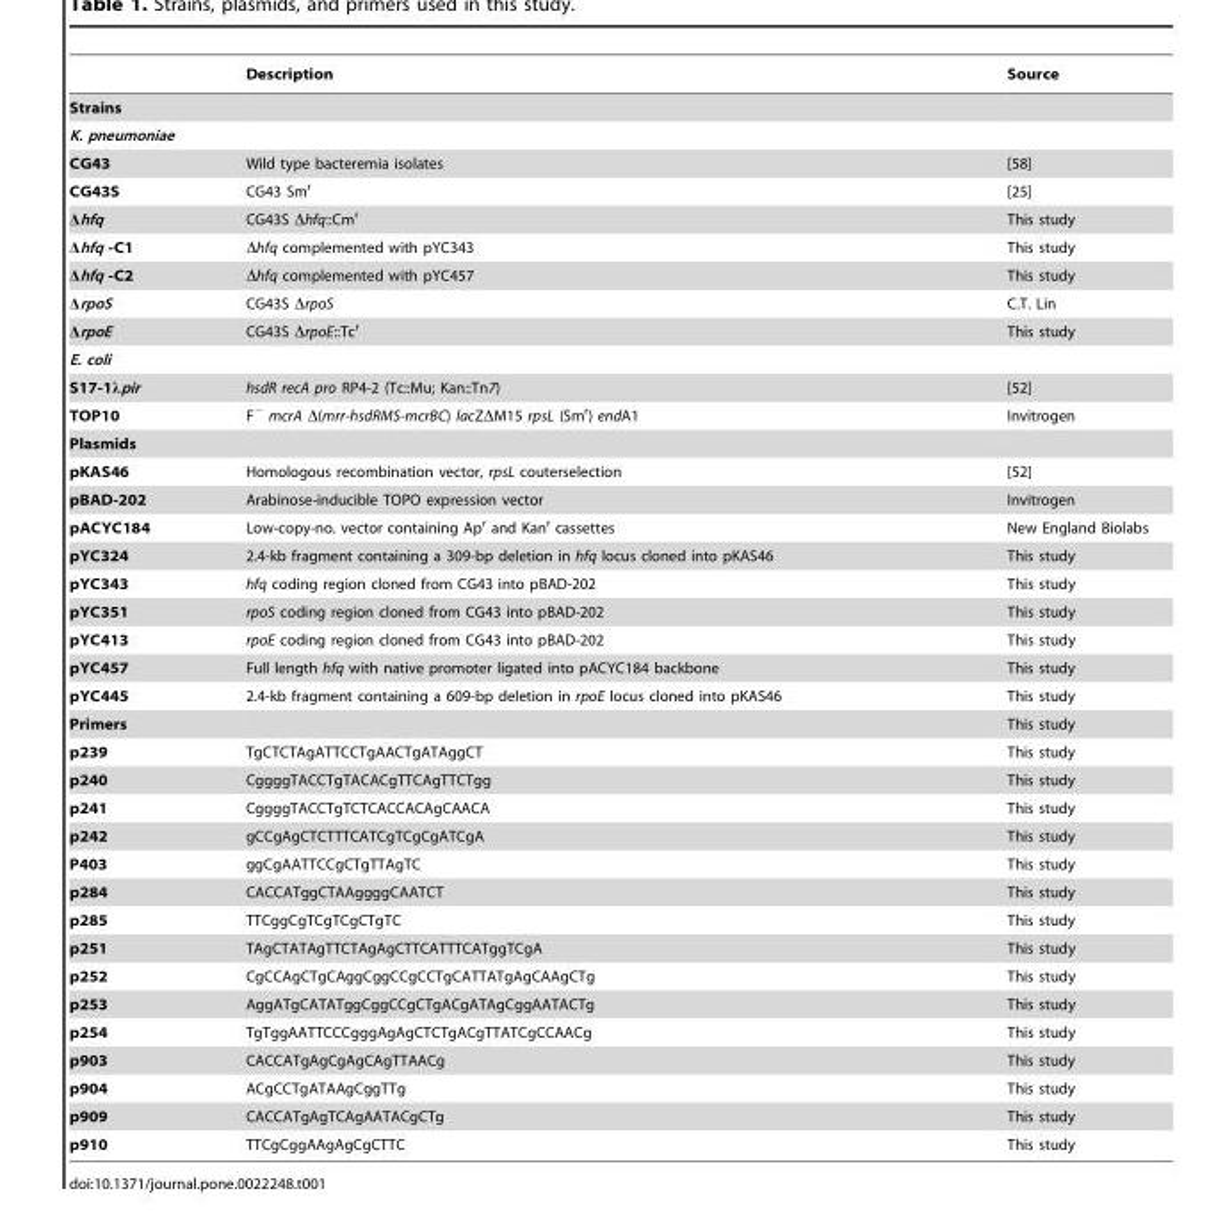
<table><thead><tr><td></td><td>Description</td><td>Source</td></tr></thead><tbody><tr><td colspan="3">Strains</td></tr><tr><td colspan="3">K. pneumoniae</td></tr><tr><td>CG43</td><td>Wild type bacteremia isolates</td><td>[58]</td></tr><tr><td>CG43S</td><td>CG43 Sm<sup>r</sup></td><td>[25]</td></tr><tr><td>Δhfq</td><td>CG43S Δhfq::Cm<sup>r</sup></td><td>This study</td></tr><tr><td>Δhfq -C1</td><td>Δhfq complemented with pYC343</td><td>This study</td></tr><tr><td>Δhfq -C2</td><td>Δhfq complemented with pYC457</td><td>This study</td></tr><tr><td>ΔrpoS</td><td>CG43S ΔrpoS</td><td>C.T. Lin</td></tr><tr><td>ΔrpoE</td><td>CG43S ΔrpoE::Tc<sup>r</sup></td><td>This study</td></tr><tr><td colspan="3">E. coli</td></tr><tr><td>S17-1λpir</td><td>hsdR recA pro RP4-2 (Tc::Mu; Kan::Tn7)</td><td>[52]</td></tr><tr><td>TOP10</td><td>F<sup>−</sup> mcrA Δ(mrr-hsdRMS-mcrBC) lacZΔM15 rpsL (Sm<sup>r</sup>) endA1</td><td>Invitrogen</td></tr><tr><td colspan="3">Plasmids</td></tr><tr><td>pKAS46</td><td>Homologous recombination vector, rpsL couterselection</td><td>[52]</td></tr><tr><td>pBAD-202</td><td>Arabinose-inducible TOPO expression vector</td><td>Invitrogen</td></tr><tr><td>pACYC184</td><td>Low-copy-no. vector containing Ap<sup>r</sup> and Kan<sup>r</sup> cassettes</td><td>New England Biolabs</td></tr><tr><td>pYC324</td><td>2.4-kb fragment containing a 309-bp deletion in hfq locus cloned into pKAS46</td><td>This study</td></tr><tr><td>pYC343</td><td>hfq coding region cloned from CG43 into pBAD-202</td><td>This study</td></tr><tr><td>pYC351</td><td>rpoS coding region cloned from CG43 into pBAD-202</td><td>This study</td></tr><tr><td>pYC413</td><td>rpoE coding region cloned from CG43 into pBAD-202</td><td>This study</td></tr><tr><td>pYC457</td><td>Full length hfq with native promoter ligated into pACYC184 backbone</td><td>This study</td></tr><tr><td>pYC445</td><td>2.4-kb fragment containing a 609-bp deletion in rpoE locus cloned into pKAS46</td><td>This study</td></tr><tr><td>Primers</td><td></td><td>This study</td></tr><tr><td>p239</td><td>TgCTCTAgATTCCTgAACTgATAggCT</td><td>This study</td></tr><tr><td>p240</td><td>CggggTACCTgTACACgTTCAgTTCTgg</td><td>This study</td></tr><tr><td>p241</td><td>CggggTACCTgTCTCACCACAgCAACA</td><td>This study</td></tr><tr><td>p242</td><td>gCCgAgCTCTTTCATCgTCgCgATCgA</td><td>This study</td></tr><tr><td>P403</td><td>ggCgAATTCCgCTgTTAgTC</td><td>This study</td></tr><tr><td>p284</td><td>CACCATggCTAAggggCAATCT</td><td>This study</td></tr><tr><td>p285</td><td>TTCggCgTCgTCgCTgTC</td><td>This study</td></tr><tr><td>p251</td><td>TAgCTATAgTTCTAgAgCTTCATTTCATggTCgA</td><td>This study</td></tr><tr><td>p252</td><td>CgCCAgCTgCAggCggCCgCCTgCATTATgAgCAAgCTg</td><td>This study</td></tr><tr><td>p253</td><td>AggATgCATATggCggCCgCTgACgATAgCggAATACTg</td><td>This study</td></tr><tr><td>p254</td><td>TgTggAATTCCCgggAgAgCTCTgACgTTATCgCCAACg</td><td>This study</td></tr><tr><td>p903</td><td>CACCATgAgCgAgCAgTTAACg</td><td>This study</td></tr><tr><td>p904</td><td>ACgCCTgATAAgCggTTg</td><td>This study</td></tr><tr><td>p909</td><td>CACCATgAgTCAgAATACgCTg</td><td>This study</td></tr><tr><td>p910</td><td>TTCgCggAAgAgCgCTTC</td><td>This study</td></tr></tbody></table>